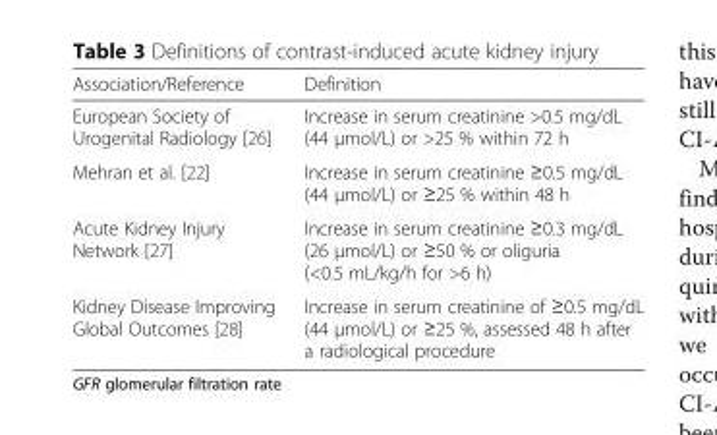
<table><thead><tr><td>Association/Reference</td><td>Definition</td></tr></thead><tbody><tr><td>European Society of Urogenital Radiology [26]</td><td>Increase in serum creatinine &gt;0.5 mg/dL (44 μmol/L) or &gt;25 % within 72 h</td></tr><tr><td>Mehran et al. [22]</td><td>Increase in serum creatinine ≥0.5 mg/dL (44 μmol/L) or ≥25 % within 48 h</td></tr><tr><td>Acute Kidney Injury Network [27]</td><td>Increase in serum creatinine ≥0.3 mg/dL (26 μmol/L) or ≥50 % or oliguria (&lt;0.5 mL/kg/h for &gt;6 h)</td></tr><tr><td>Kidney Disease Improving Global Outcomes [28]</td><td>Increase in serum creatinine of ≥0.5 mg/dL (44 μmol/L) or ≥25 %, assessed 48 h after a radiological procedure</td></tr></tbody></table>